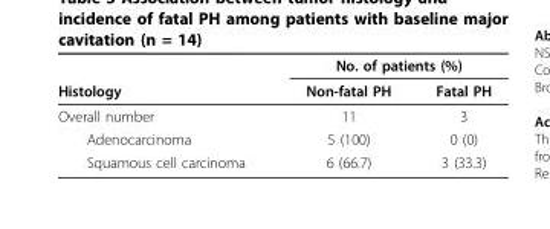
<table><thead><tr><td rowspan="2">Histology</td><td colspan="2">No. of patients (%)</td></tr><tr><td>Non-fatal PH</td><td>Fatal PH</td></tr></thead><tbody><tr><td>Overall number</td><td>11</td><td>3</td></tr><tr><td>Adenocarcinoma</td><td>5 (100)</td><td>0 (0)</td></tr><tr><td>Squamous cell carcinoma</td><td>6 (66.7)</td><td>3 (33.3)</td></tr></tbody></table>